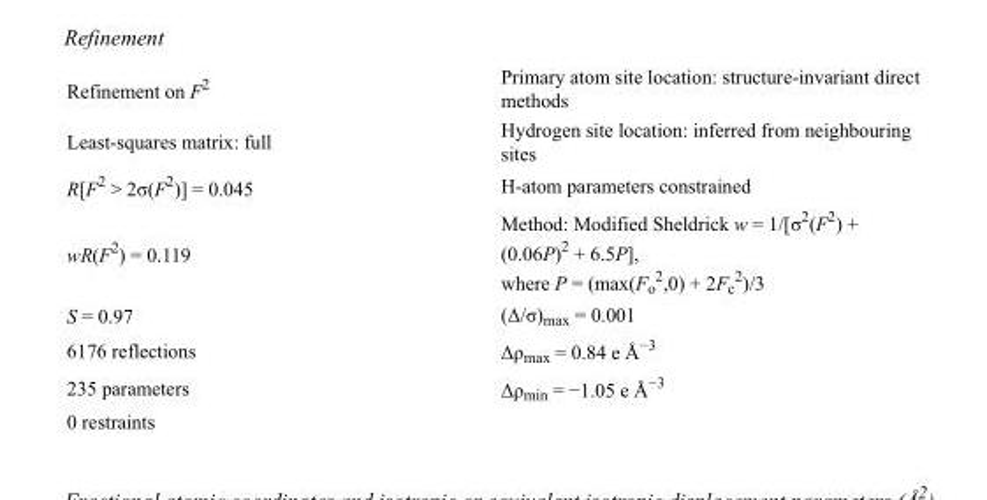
<table><tbody><tr><td>Refinement on F<sup>2</sup></td><td>Primary atom site location: structure-invariant direct methods</td></tr><tr><td>Least-squares matrix: full</td><td>Hydrogen site location: inferred from neighbouring sites</td></tr><tr><td>R[F<sup>2</sup> &gt; 2σ(F<sup>2</sup>)] = 0.045</td><td>H-atom parameters constrained</td></tr><tr><td>wR(F<sup>2</sup>) = 0.119</td><td>Method: Modified Sheldrick w = 1/[σ<sup>2</sup>(F<sup>2</sup>) + (0.06P)<sup>2</sup> + 6.5P], where P = (max(F<sub>o</sub> <sup>2</sup>,0) + 2F<sub>c</sub> <sup>2</sup>)/3</td></tr><tr><td>S = 0.97</td><td>(Δ/σ)<sub>max</sub> = 0.001</td></tr><tr><td>6176 reflections</td><td>Δρ<sub>max</sub> = 0.84 e Å<sup>−3</sup></td></tr><tr><td>235 parameters</td><td>Δρ<sub>min</sub> = −1.05 e Å<sup>−3</sup></td></tr><tr><td>0 restraints</td><td></td></tr></tbody></table>